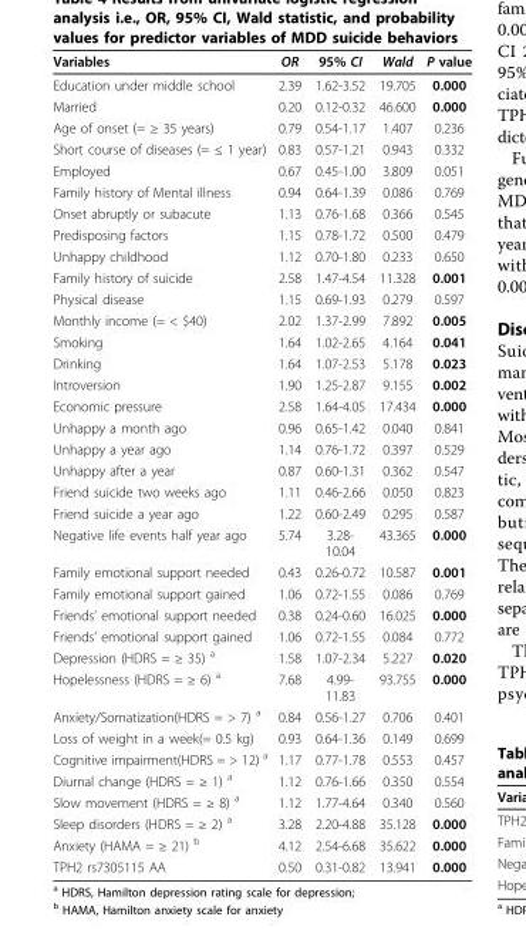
<table><thead><tr><td>Variables</td><td>OR</td><td>95% CI</td><td>Wald</td><td>P value</td></tr></thead><tbody><tr><td>Education under middle school</td><td>2.39</td><td>1.62-3.52</td><td>19.705</td><td>0.000</td></tr><tr><td>Married</td><td>0.20</td><td>0.12-0.32</td><td>46.600</td><td>0.000</td></tr><tr><td>Age of onset (= ≥ 35 years)</td><td>0.79</td><td>0.54-1.17</td><td>1.407</td><td>0.236</td></tr><tr><td>Short course of diseases (= ≤ 1 year)</td><td>0.83</td><td>0.57-1.21</td><td>0.943</td><td>0.332</td></tr><tr><td>Employed</td><td>0.67</td><td>0.45-1.00</td><td>3.809</td><td>0.051</td></tr><tr><td>Family history of Mental illness</td><td>0.94</td><td>0.64-1.39</td><td>0.086</td><td>0.769</td></tr><tr><td>Onset abruptly or subacute</td><td>1.13</td><td>0.76-1.68</td><td>0.366</td><td>0.545</td></tr><tr><td>Predisposing factors</td><td>1.15</td><td>0.78-1.72</td><td>0.500</td><td>0.479</td></tr><tr><td>Unhappy childhood</td><td>1.12</td><td>0.70-1.80</td><td>0.233</td><td>0.650</td></tr><tr><td>Family history of suicide</td><td>2.58</td><td>1.47-4.54</td><td>11.328</td><td>0.001</td></tr><tr><td>Physical disease</td><td>1.15</td><td>0.69-1.93</td><td>0.279</td><td>0.597</td></tr><tr><td>Monthly income (= &lt; $40)</td><td>2.02</td><td>1.37-2.99</td><td>7.892</td><td>0.005</td></tr><tr><td>Smoking</td><td>1.64</td><td>1.02-2.65</td><td>4.164</td><td>0.041</td></tr><tr><td>Drinking</td><td>1.64</td><td>1.07-2.53</td><td>5.178</td><td>0.023</td></tr><tr><td>Introversion</td><td>1.90</td><td>1.25-2.87</td><td>9.155</td><td>0.002</td></tr><tr><td>Economic pressure</td><td>2.58</td><td>1.64-4.05</td><td>17.434</td><td>0.000</td></tr><tr><td>Unhappy a month ago</td><td>0.96</td><td>0.65-1.42</td><td>0.040</td><td>0.841</td></tr><tr><td>Unhappy a year ago</td><td>1.14</td><td>0.76-1.72</td><td>0.397</td><td>0.529</td></tr><tr><td>Unhappy after a year</td><td>0.87</td><td>0.60-1.31</td><td>0.362</td><td>0.547</td></tr><tr><td>Friend suicide two weeks ago</td><td>1.11</td><td>0.46-2.66</td><td>0.050</td><td>0.823</td></tr><tr><td>Friend suicide a year ago</td><td>1.22</td><td>0.60-2.49</td><td>0.295</td><td>0.587</td></tr><tr><td>Negative life events half year ago</td><td>5.74</td><td>3.28- 10.04</td><td>43.365</td><td>0.000</td></tr><tr><td>Family emotional support needed</td><td>0.43</td><td>0.26-0.72</td><td>10.587</td><td>0.001</td></tr><tr><td>Family emotional support gained</td><td>1.06</td><td>0.72-1.55</td><td>0.086</td><td>0.769</td></tr><tr><td>Friends’ emotional support needed</td><td>0.38</td><td>0.24-0.60</td><td>16.025</td><td>0.000</td></tr><tr><td>Friends’ emotional support gained</td><td>1.06</td><td>0.72-1.55</td><td>0.084</td><td>0.772</td></tr><tr><td>Depression (HDRS = ≥ 35) <sup>a</sup></td><td>1.58</td><td>1.07-2.34</td><td>5.227</td><td>0.020</td></tr><tr><td>Hopelessness (HDRS = ≥ 6) <sup>a</sup></td><td>7.68</td><td>4.99- 11.83</td><td>93.755</td><td>0.000</td></tr><tr><td>Anxiety/Somatization(HDRS = &gt; 7) <sup>a</sup></td><td>0.84</td><td>0.56-1.27</td><td>0.706</td><td>0.401</td></tr><tr><td>Loss of weight in a week(= 0.5 kg)</td><td>0.93</td><td>0.64-1.36</td><td>0.149</td><td>0.699</td></tr><tr><td>Cognitive impairment(HDRS = &gt; 12) <sup>a</sup></td><td>1.17</td><td>0.77-1.78</td><td>0.553</td><td>0.457</td></tr><tr><td>Diurnal change (HDRS = ≥ 1) <sup>a</sup></td><td>1.12</td><td>0.76-1.66</td><td>0.350</td><td>0.554</td></tr><tr><td>Slow movement (HDRS = ≥ 8) <sup>a</sup></td><td>1.12</td><td>1.77-4.64</td><td>0.340</td><td>0.560</td></tr><tr><td>Sleep disorders (HDRS = ≥ 2) <sup>a</sup></td><td>3.28</td><td>2.20-4.88</td><td>35.128</td><td>0.000</td></tr><tr><td>Anxiety (HAMA = ≥ 21) <sup>b</sup></td><td>4.12</td><td>2.54-6.68</td><td>35.622</td><td>0.000</td></tr><tr><td>TPH2 rs7305115 AA</td><td>0.50</td><td>0.31-0.82</td><td>13.941</td><td>0.000</td></tr></tbody></table>